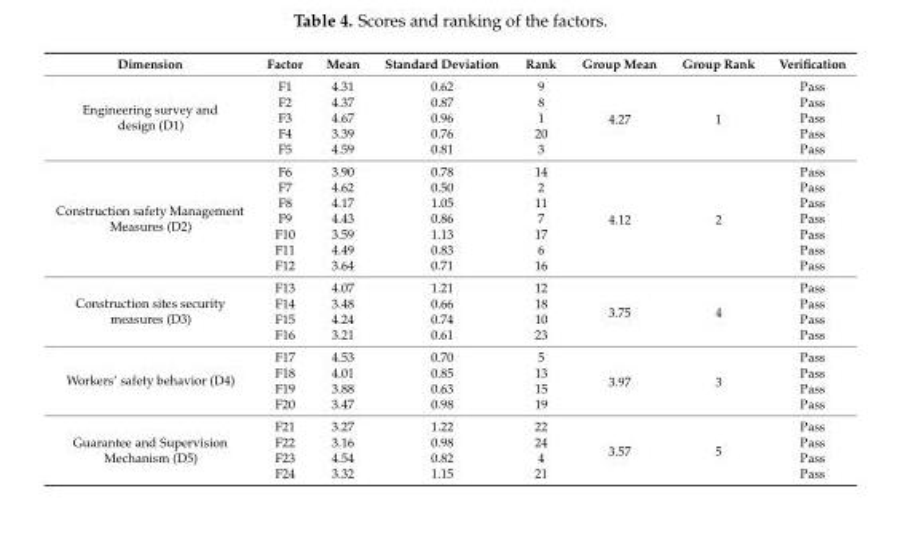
<table><thead><tr><td>Dimension</td><td>Factor</td><td>Mean</td><td>Standard Deviation</td><td>Rank</td><td>Group Mean</td><td>Group Rank</td><td>Verification</td></tr></thead><tbody><tr><td rowspan="5">Engineering survey and design (D1)</td><td>F1</td><td>4.31</td><td>0.62</td><td>9</td><td rowspan="5">4.27</td><td rowspan="5">1</td><td>Pass</td></tr><tr><td>F2</td><td>4.37</td><td>0.87</td><td>8</td><td>Pass</td></tr><tr><td>F3</td><td>4.67</td><td>0.96</td><td>1</td><td>Pass</td></tr><tr><td>F4</td><td>3.39</td><td>0.76</td><td>20</td><td>Pass</td></tr><tr><td>F5</td><td>4.59</td><td>0.81</td><td>3</td><td>Pass</td></tr><tr><td rowspan="7">Construction safety Management Measures (D2)</td><td>F6</td><td>3.90</td><td>0.78</td><td>14</td><td rowspan="7">4.12</td><td rowspan="7">2</td><td>Pass</td></tr><tr><td>F7</td><td>4.62</td><td>0.50</td><td>2</td><td>Pass</td></tr><tr><td>F8</td><td>4.17</td><td>1.05</td><td>11</td><td>Pass</td></tr><tr><td>F9</td><td>4.43</td><td>0.86</td><td>7</td><td>Pass</td></tr><tr><td>F10</td><td>3.59</td><td>1.13</td><td>17</td><td>Pass</td></tr><tr><td>F11</td><td>4.49</td><td>0.83</td><td>6</td><td>Pass</td></tr><tr><td>F12</td><td>3.64</td><td>0.71</td><td>16</td><td>Pass</td></tr><tr><td rowspan="4">Construction sites security measures (D3)</td><td>F13</td><td>4.07</td><td>1.21</td><td>12</td><td rowspan="4">3.75</td><td rowspan="4">4</td><td>Pass</td></tr><tr><td>F14</td><td>3.48</td><td>0.66</td><td>18</td><td>Pass</td></tr><tr><td>F15</td><td>4.24</td><td>0.74</td><td>10</td><td>Pass</td></tr><tr><td>F16</td><td>3.21</td><td>0.61</td><td>23</td><td>Pass</td></tr><tr><td rowspan="4">Workers’ safety behavior (D4)</td><td>F17</td><td>4.53</td><td>0.70</td><td>5</td><td rowspan="4">3.97</td><td rowspan="4">3</td><td>Pass</td></tr><tr><td>F18</td><td>4.01</td><td>0.85</td><td>13</td><td>Pass</td></tr><tr><td>F19</td><td>3.88</td><td>0.63</td><td>15</td><td>Pass</td></tr><tr><td>F20</td><td>3.47</td><td>0.98</td><td>19</td><td>Pass</td></tr><tr><td rowspan="4">Guarantee and Supervision Mechanism (D5)</td><td>F21</td><td>3.27</td><td>1.22</td><td>22</td><td rowspan="4">3.57</td><td rowspan="4">5</td><td>Pass</td></tr><tr><td>F22</td><td>3.16</td><td>0.98</td><td>24</td><td>Pass</td></tr><tr><td>F23</td><td>4.54</td><td>0.82</td><td>4</td><td>Pass</td></tr><tr><td>F24</td><td>3.32</td><td>1.15</td><td>21</td><td>Pass</td></tr></tbody></table>